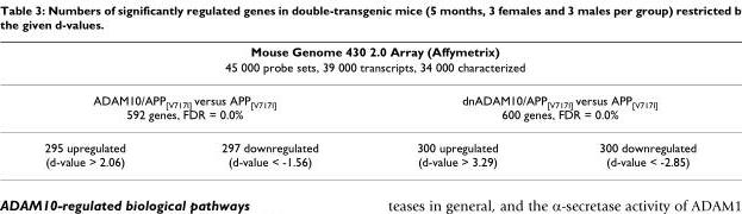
<table><thead><tr><td rowspan="2" colspan="4">Mouse Genome 430 2.0 Array (Affymetrix) 45 000 probe sets, 39 000 transcripts, 34 000 characterized</td></tr><tr></tr><tr><td colspan="2">ADAM10/APP[V717I] versus APP[V717I] 592 genes, FDR = 0.0%</td><td colspan="2">dnADAM10/APP[V717I] versus APP[V717I] 600 genes, FDR = 0.0%</td></tr><tr><td>295 upregulated (d-value &gt; 2.06)</td><td>297 downregulated (d-value &lt; -1.56)</td><td>300 upregulated (d-value &gt; 3.29)</td><td>300 downregulated (d-value &lt; -2.85)</td></tr></thead><tbody></tbody></table>